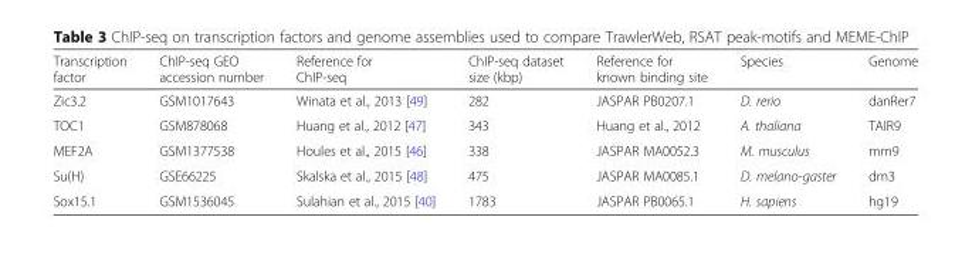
<table><thead><tr><td>Transcription factor</td><td>ChIP-seq GEO accession number</td><td>Reference for ChIP-seq</td><td>ChIP-seq dataset size (kbp)</td><td>Reference for known binding site</td><td>Species</td><td>Genome</td></tr></thead><tbody><tr><td>Zic3.2</td><td>GSM1017643</td><td>Winata et al., 2013 [49]</td><td>282</td><td>JASPAR PB0207.1</td><td>D. rerio</td><td>danRer7</td></tr><tr><td>TOC1</td><td>GSM878068</td><td>Huang et al., 2012 [47]</td><td>343</td><td>Huang et al., 2012</td><td>A. thaliana</td><td>TAIR9</td></tr><tr><td>MEF2A</td><td>GSM1377538</td><td>Houles et al., 2015 [46]</td><td>338</td><td>JASPAR MA0052.3</td><td>M. musculus</td><td>mm9</td></tr><tr><td>Su(H)</td><td>GSE66225</td><td>Skalska et al., 2015 [48]</td><td>475</td><td>JASPAR MA0085.1</td><td>D. melano-gaster</td><td>dm3</td></tr><tr><td>Sox15.1</td><td>GSM1536045</td><td>Sulahian et al., 2015 [40]</td><td>1783</td><td>JASPAR PB0065.1</td><td>H. sapiens</td><td>hg19</td></tr></tbody></table>